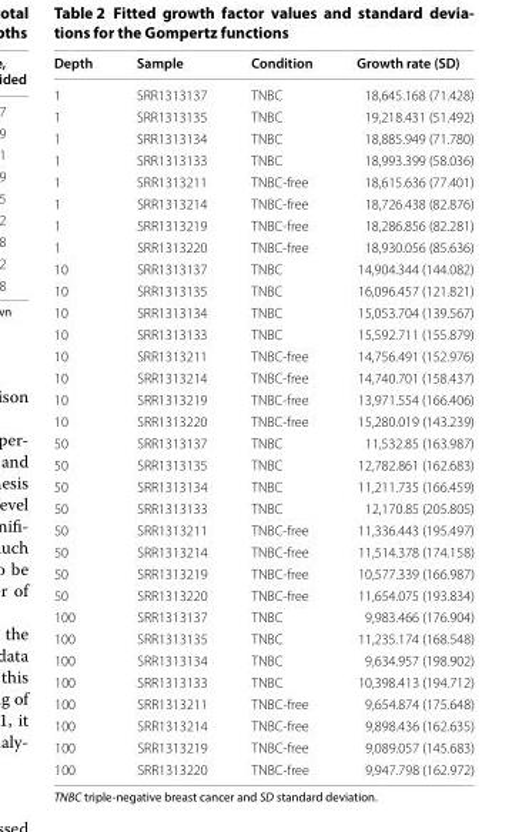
<table><thead><tr><td>Depth</td><td>Sample</td><td>Condition</td><td>Growth rate (SD)</td></tr></thead><tbody><tr><td>1</td><td>SRR1313137</td><td>TNBC</td><td>18,645.168 (71.428)</td></tr><tr><td>1</td><td>SRR1313135</td><td>TNBC</td><td>19,218.431 (51.492)</td></tr><tr><td>1</td><td>SRR1313134</td><td>TNBC</td><td>18,885.949 (71.780)</td></tr><tr><td>1</td><td>SRR1313133</td><td>TNBC</td><td>18,993.399 (58.036)</td></tr><tr><td>1</td><td>SRR1313211</td><td>TNBC‑free</td><td>18,615.636 (77.401)</td></tr><tr><td>1</td><td>SRR1313214</td><td>TNBC‑free</td><td>18,726.438 (82.876)</td></tr><tr><td>1</td><td>SRR1313219</td><td>TNBC‑free</td><td>18,286.856 (82.281)</td></tr><tr><td>1</td><td>SRR1313220</td><td>TNBC‑free</td><td>18,930.056 (85.636)</td></tr><tr><td>10</td><td>SRR1313137</td><td>TNBC</td><td>14,904.344 (144.082)</td></tr><tr><td>10</td><td>SRR1313135</td><td>TNBC</td><td>16,096.457 (121.821)</td></tr><tr><td>10</td><td>SRR1313134</td><td>TNBC</td><td>15,053.704 (139.567)</td></tr><tr><td>10</td><td>SRR1313133</td><td>TNBC</td><td>15,592.711 (155.879)</td></tr><tr><td>10</td><td>SRR1313211</td><td>TNBC‑free</td><td>14,756.491 (152.976)</td></tr><tr><td>10</td><td>SRR1313214</td><td>TNBC‑free</td><td>14,740.701 (158.437)</td></tr><tr><td>10</td><td>SRR1313219</td><td>TNBC‑free</td><td>13,971.554 (166.406)</td></tr><tr><td>10</td><td>SRR1313220</td><td>TNBC‑free</td><td>15,280.019 (143.239)</td></tr><tr><td>50</td><td>SRR1313137</td><td>TNBC</td><td>11,532.85 (163.987)</td></tr><tr><td>50</td><td>SRR1313135</td><td>TNBC</td><td>12,782.861 (162.683)</td></tr><tr><td>50</td><td>SRR1313134</td><td>TNBC</td><td>11,211.735 (166.459)</td></tr><tr><td>50</td><td>SRR1313133</td><td>TNBC</td><td>12,170.85 (205.805)</td></tr><tr><td>50</td><td>SRR1313211</td><td>TNBC‑free</td><td>11,336.443 (195.497)</td></tr><tr><td>50</td><td>SRR1313214</td><td>TNBC‑free</td><td>11,514.378 (174.158)</td></tr><tr><td>50</td><td>SRR1313219</td><td>TNBC‑free</td><td>10,577.339 (166.987)</td></tr><tr><td>50</td><td>SRR1313220</td><td>TNBC‑free</td><td>11,654.075 (193.834)</td></tr><tr><td>100</td><td>SRR1313137</td><td>TNBC</td><td>9,983.466 (176.904)</td></tr><tr><td>100</td><td>SRR1313135</td><td>TNBC</td><td>11,235.174 (168.548)</td></tr><tr><td>100</td><td>SRR1313134</td><td>TNBC</td><td>9,634.957 (198.902)</td></tr><tr><td>100</td><td>SRR1313133</td><td>TNBC</td><td>10,398.413 (194.712)</td></tr><tr><td>100</td><td>SRR1313211</td><td>TNBC‑free</td><td>9,654.874 (175.648)</td></tr><tr><td>100</td><td>SRR1313214</td><td>TNBC‑free</td><td>9,898.436 (162.635)</td></tr><tr><td>100</td><td>SRR1313219</td><td>TNBC‑free</td><td>9,089.057 (145.683)</td></tr><tr><td>100</td><td>SRR1313220</td><td>TNBC‑free</td><td>9,947.798 (162.972)</td></tr></tbody></table>